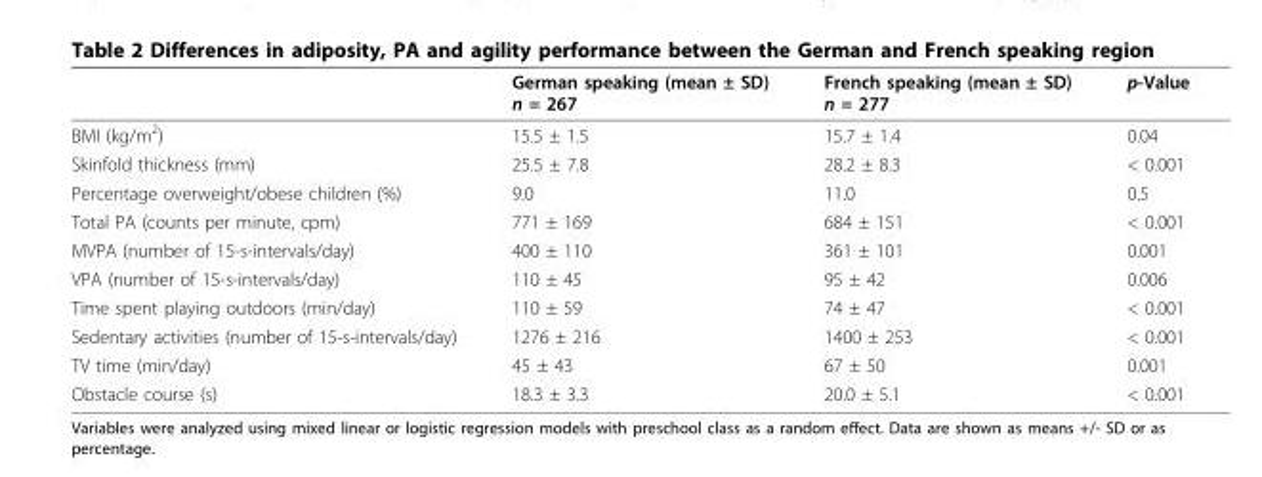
<table><thead><tr><td></td><td>German speaking (mean ± SD) n = 267</td><td>French speaking (mean ± SD) n = 277</td><td>p-Value</td></tr></thead><tbody><tr><td>BMI (kg/m<sup>2</sup>)</td><td>15.5 ± 1.5</td><td>15.7 ± 1.4</td><td>0.04</td></tr><tr><td>Skinfold thickness (mm)</td><td>25.5 ± 7.8</td><td>28.2 ± 8.3</td><td>&lt; 0.001</td></tr><tr><td>Percentage overweight/obese children (%)</td><td>9.0</td><td>11.0</td><td>0.5</td></tr><tr><td>Total PA (counts per minute, cpm)</td><td>771 ± 169</td><td>684 ± 151</td><td>&lt; 0.001</td></tr><tr><td>MVPA (number of 15-s-intervals/day)</td><td>400 ± 110</td><td>361 ± 101</td><td>0.001</td></tr><tr><td>VPA (number of 15-s-intervals/day)</td><td>110 ± 45</td><td>95 ± 42</td><td>0.006</td></tr><tr><td>Time spent playing outdoors (min/day)</td><td>110 ± 59</td><td>74 ± 47</td><td>&lt; 0.001</td></tr><tr><td>Sedentary activities (number of 15-s-intervals/day)</td><td>1276 ± 216</td><td>1400 ± 253</td><td>&lt; 0.001</td></tr><tr><td>TV time (min/day)</td><td>45 ± 43</td><td>67 ± 50</td><td>0.001</td></tr><tr><td>Obstacle course (s)</td><td>18.3 ± 3.3</td><td>20.0 ± 5.1</td><td>&lt; 0.001</td></tr></tbody></table>